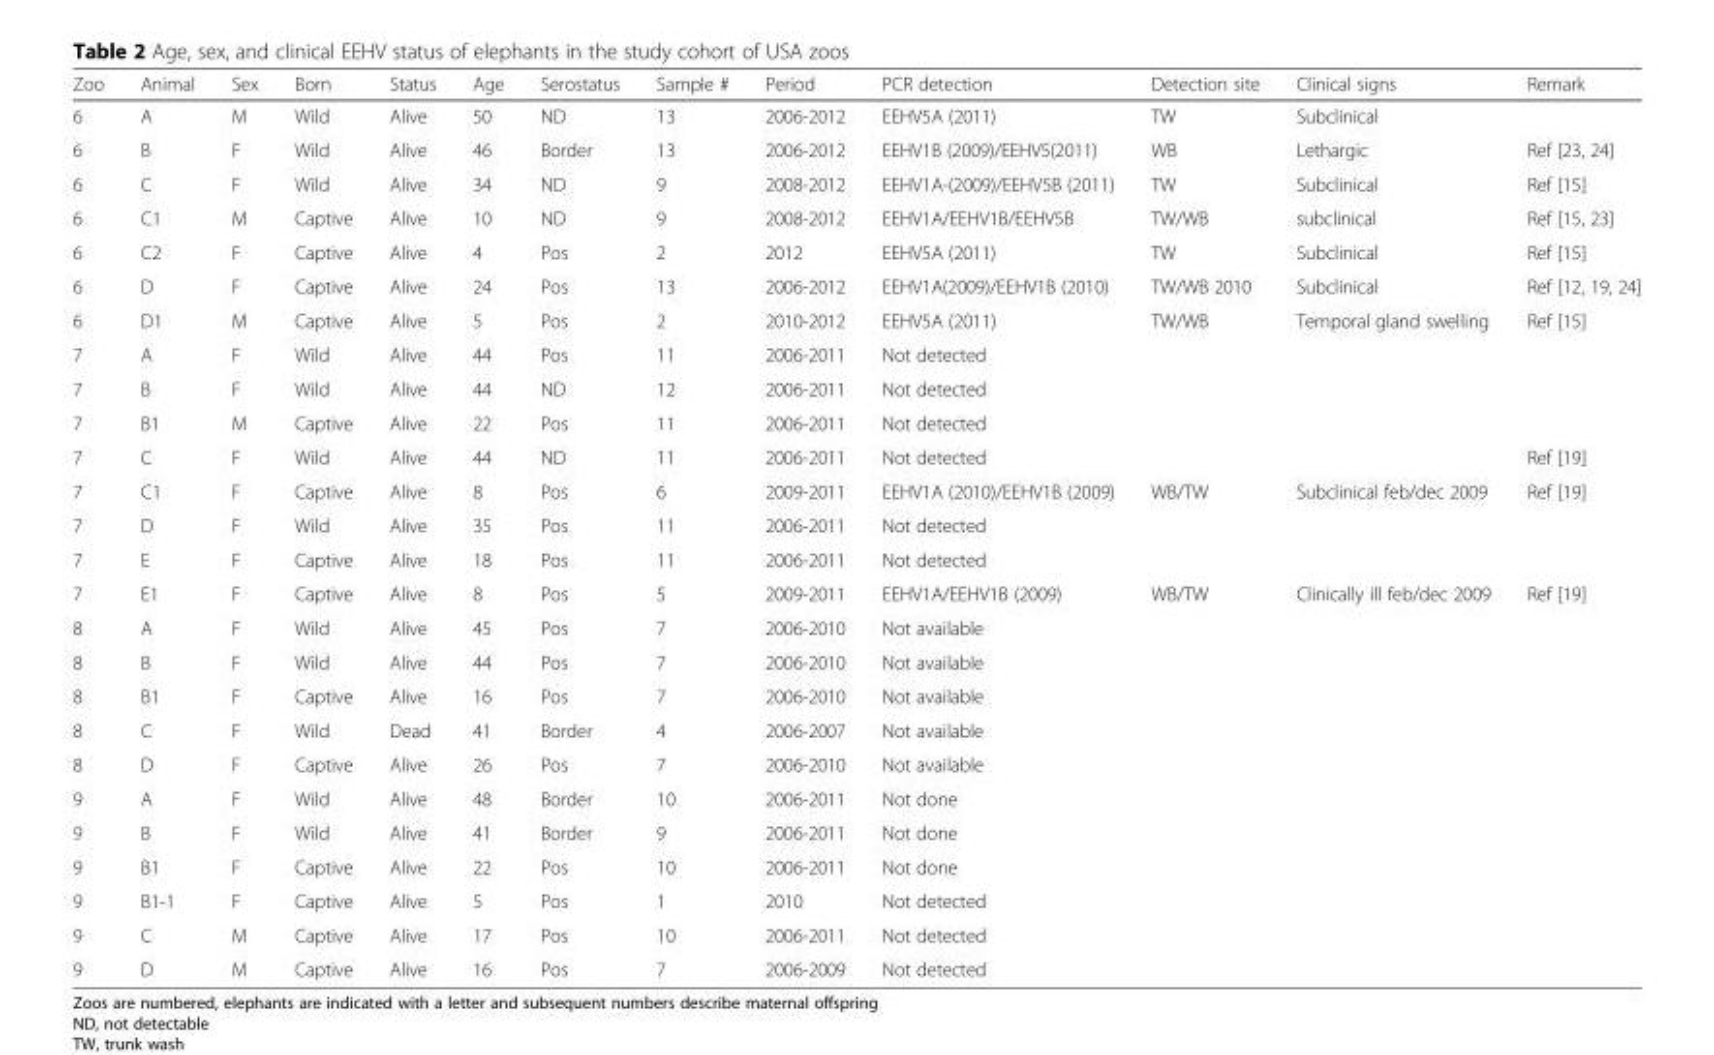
<table><thead><tr><td>Zoo</td><td>Animal</td><td>Sex</td><td>Born</td><td>Status</td><td>Age</td><td>Serostatus</td><td>Sample #</td><td>Period</td><td>PCR detection</td><td>Detection site</td><td>Clinical signs</td><td>Remark</td></tr></thead><tbody><tr><td>6</td><td>A</td><td>M</td><td>Wild</td><td>Alive</td><td>50</td><td>ND</td><td>13</td><td>2006-2012</td><td>EEHV5A (2011)</td><td>TW</td><td>Subclinical</td><td></td></tr><tr><td>6</td><td>B</td><td>F</td><td>Wild</td><td>Alive</td><td>46</td><td>Border</td><td>13</td><td>2006-2012</td><td>EEHV1B (2009)/EEHV5(2011)</td><td>WB</td><td>Lethargic</td><td>Ref [23, 24]</td></tr><tr><td>6</td><td>C</td><td>F</td><td>Wild</td><td>Alive</td><td>34</td><td>ND</td><td>9</td><td>2008-2012</td><td>EEHV1A-(2009)/EEHV5B (2011)</td><td>TW</td><td>Subclinical</td><td>Ref [15]</td></tr><tr><td>6</td><td>C1</td><td>M</td><td>Captive</td><td>Alive</td><td>10</td><td>ND</td><td>9</td><td>2008-2012</td><td>EEHV1A/EEHV1B/EEHV5B</td><td>TW/WB</td><td>subclinical</td><td>Ref [15, 23]</td></tr><tr><td>6</td><td>C2</td><td>F</td><td>Captive</td><td>Alive</td><td>4</td><td>Pos</td><td>2</td><td>2012</td><td>EEHV5A (2011)</td><td>TW</td><td>Subclinical</td><td>Ref [15]</td></tr><tr><td>6</td><td>D</td><td>F</td><td>Captive</td><td>Alive</td><td>24</td><td>Pos</td><td>13</td><td>2006-2012</td><td>EEHV1A(2009)/EEHV1B (2010)</td><td>TW/WB 2010</td><td>Subclinical</td><td>Ref [12, 19, 24]</td></tr><tr><td>6</td><td>D1</td><td>M</td><td>Captive</td><td>Alive</td><td>5</td><td>Pos</td><td>2</td><td>2010-2012</td><td>EEHV5A (2011)</td><td>TW/WB</td><td>Temporal gland swelling</td><td>Ref [15]</td></tr><tr><td>7</td><td>A</td><td>F</td><td>Wild</td><td>Alive</td><td>44</td><td>Pos</td><td>11</td><td>2006-2011</td><td>Not detected</td><td></td><td></td><td></td></tr><tr><td>7</td><td>B</td><td>F</td><td>Wild</td><td>Alive</td><td>44</td><td>ND</td><td>12</td><td>2006-2011</td><td>Not detected</td><td></td><td></td><td></td></tr><tr><td>7</td><td>B1</td><td>M</td><td>Captive</td><td>Alive</td><td>22</td><td>Pos</td><td>11</td><td>2006-2011</td><td>Not detected</td><td></td><td></td><td></td></tr><tr><td>7</td><td>C</td><td>F</td><td>Wild</td><td>Alive</td><td>44</td><td>ND</td><td>11</td><td>2006-2011</td><td>Not detected</td><td></td><td></td><td>Ref [19]</td></tr><tr><td>7</td><td>C1</td><td>F</td><td>Captive</td><td>Alive</td><td>8</td><td>Pos</td><td>6</td><td>2009-2011</td><td>EEHV1A (2010)/EEHV1B (2009)</td><td>WB/TW</td><td>Subclinical feb/dec 2009</td><td>Ref [19]</td></tr><tr><td>7</td><td>D</td><td>F</td><td>Wild</td><td>Alive</td><td>35</td><td>Pos</td><td>11</td><td>2006-2011</td><td>Not detected</td><td></td><td></td><td></td></tr><tr><td>7</td><td>E</td><td>F</td><td>Captive</td><td>Alive</td><td>18</td><td>Pos</td><td>11</td><td>2006-2011</td><td>Not detected</td><td></td><td></td><td></td></tr><tr><td>7</td><td>E1</td><td>F</td><td>Captive</td><td>Alive</td><td>8</td><td>Pos</td><td>5</td><td>2009-2011</td><td>EEHV1A/EEHV1B (2009)</td><td>WB/TW</td><td>Clinically ill feb/dec 2009</td><td>Ref [19]</td></tr><tr><td>8</td><td>A</td><td>F</td><td>Wild</td><td>Alive</td><td>45</td><td>Pos</td><td>7</td><td>2006-2010</td><td>Not available</td><td></td><td></td><td></td></tr><tr><td>8</td><td>B</td><td>F</td><td>Wild</td><td>Alive</td><td>44</td><td>Pos</td><td>7</td><td>2006-2010</td><td>Not available</td><td></td><td></td><td></td></tr><tr><td>8</td><td>B1</td><td>F</td><td>Captive</td><td>Alive</td><td>16</td><td>Pos</td><td>7</td><td>2006-2010</td><td>Not available</td><td></td><td></td><td></td></tr><tr><td>8</td><td>C</td><td>F</td><td>Wild</td><td>Dead</td><td>41</td><td>Border</td><td>4</td><td>2006-2007</td><td>Not available</td><td></td><td></td><td></td></tr><tr><td>8</td><td>D</td><td>F</td><td>Captive</td><td>Alive</td><td>26</td><td>Pos</td><td>7</td><td>2006-2010</td><td>Not available</td><td></td><td></td><td></td></tr><tr><td>9</td><td>A</td><td>F</td><td>Wild</td><td>Alive</td><td>48</td><td>Border</td><td>10</td><td>2006-2011</td><td>Not done</td><td></td><td></td><td></td></tr><tr><td>9</td><td>B</td><td>F</td><td>Wild</td><td>Alive</td><td>41</td><td>Border</td><td>9</td><td>2006-2011</td><td>Not done</td><td></td><td></td><td></td></tr><tr><td>9</td><td>B1</td><td>F</td><td>Captive</td><td>Alive</td><td>22</td><td>Pos</td><td>10</td><td>2006-2011</td><td>Not done</td><td></td><td></td><td></td></tr><tr><td>9</td><td>B1-1</td><td>F</td><td>Captive</td><td>Alive</td><td>5</td><td>Pos</td><td>1</td><td>2010</td><td>Not detected</td><td></td><td></td><td></td></tr><tr><td>9</td><td>C</td><td>M</td><td>Captive</td><td>Alive</td><td>17</td><td>Pos</td><td>10</td><td>2006-2011</td><td>Not detected</td><td></td><td></td><td></td></tr><tr><td>9</td><td>D</td><td>M</td><td>Captive</td><td>Alive</td><td>16</td><td>Pos</td><td>7</td><td>2006-2009</td><td>Not detected</td><td></td><td></td><td></td></tr></tbody></table>